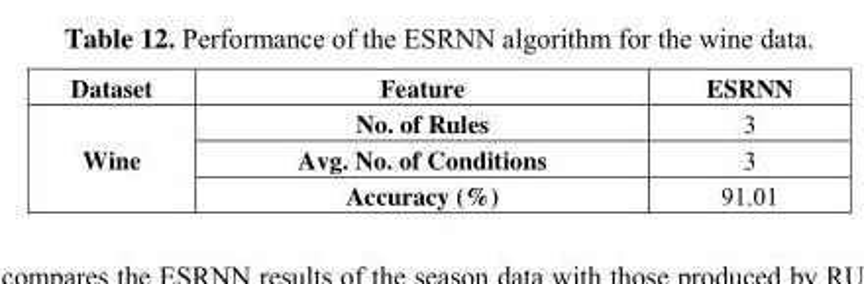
<table><thead><tr><td>Dataset</td><td>Feature</td><td>ESRNN</td></tr></thead><tbody><tr><td rowspan="3">Wine</td><td>No. of Rules</td><td>3</td></tr><tr><td>Avg. No. of Conditions</td><td>3</td></tr><tr><td>Accuracy (%)</td><td>91.01</td></tr></tbody></table>